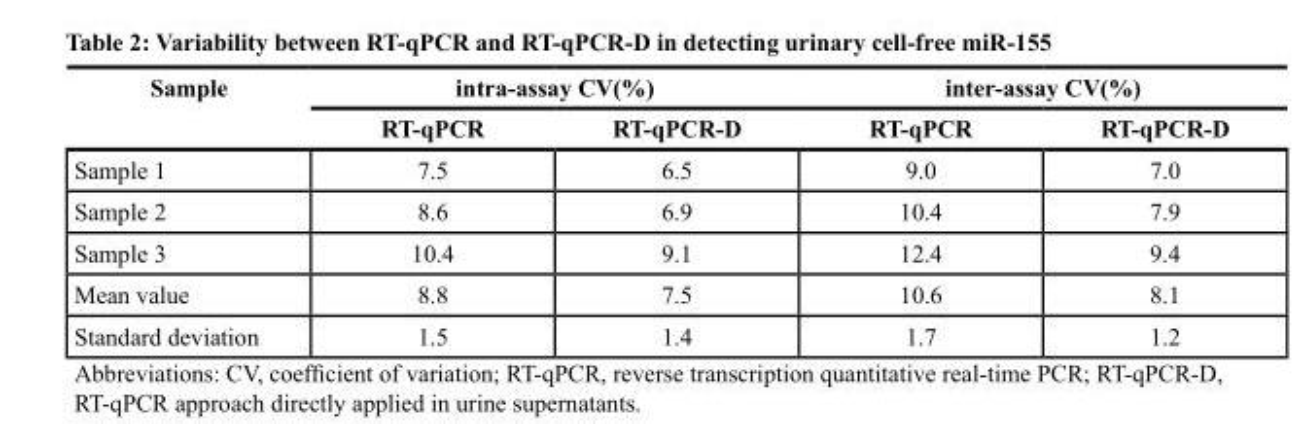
<table><thead><tr><td rowspan="2">Sample</td><td colspan="2">intra-assay CV(%)</td><td colspan="2">inter-assay CV(%)</td></tr><tr><td>RT-qPCR</td><td>RT-qPCR-D</td><td>RT-qPCR</td><td>RT-qPCR-D</td></tr></thead><tbody><tr><td>Sample 1</td><td>7.5</td><td>6.5</td><td>9.0</td><td>7.0</td></tr><tr><td>Sample 2</td><td>8.6</td><td>6.9</td><td>10.4</td><td>7.9</td></tr><tr><td>Sample 3</td><td>10.4</td><td>9.1</td><td>12.4</td><td>9.4</td></tr><tr><td>Mean value</td><td>8.8</td><td>7.5</td><td>10.6</td><td>8.1</td></tr><tr><td>Standard deviation</td><td>1.5</td><td>1.4</td><td>1.7</td><td>1.2</td></tr></tbody></table>